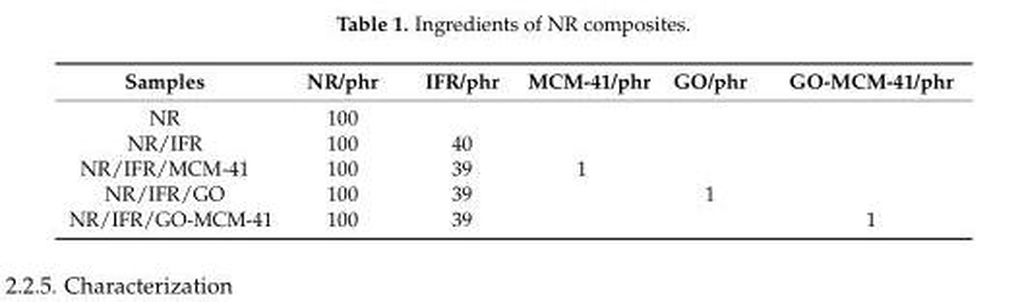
<table><thead><tr><td>Samples</td><td>NR/phr</td><td>IFR/phr</td><td>MCM-41/phr</td><td>GO/phr</td><td>GO-MCM-41/phr</td></tr></thead><tbody><tr><td>NR</td><td>100</td><td></td><td></td><td></td><td></td></tr><tr><td>NR/IFR</td><td>100</td><td>40</td><td></td><td></td><td></td></tr><tr><td>NR/IFR/MCM-41</td><td>100</td><td>39</td><td>1</td><td></td><td></td></tr><tr><td>NR/IFR/GO</td><td>100</td><td>39</td><td></td><td>1</td><td></td></tr><tr><td>NR/IFR/GO-MCM-41</td><td>100</td><td>39</td><td></td><td></td><td>1</td></tr></tbody></table>